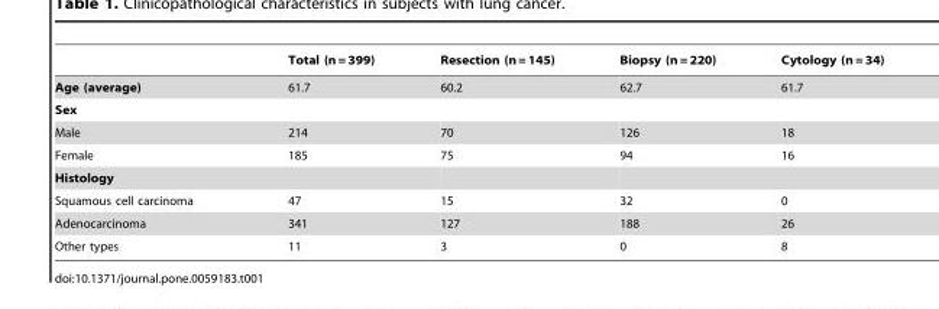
<table><thead><tr><td></td><td>Total (n = 399)</td><td>Resection (n = 145)</td><td>Biopsy (n = 220)</td><td>Cytology (n = 34)</td></tr></thead><tbody><tr><td>Age (average)</td><td>61.7</td><td>60.2</td><td>62.7</td><td>61.7</td></tr><tr><td colspan="5">Sex</td></tr><tr><td>Male</td><td>214</td><td>70</td><td>126</td><td>18</td></tr><tr><td>Female</td><td>185</td><td>75</td><td>94</td><td>16</td></tr><tr><td colspan="5">Histology</td></tr><tr><td>Squamous cell carcinoma</td><td>47</td><td>15</td><td>32</td><td>0</td></tr><tr><td>Adenocarcinoma</td><td>341</td><td>127</td><td>188</td><td>26</td></tr><tr><td>Other types</td><td>11</td><td>3</td><td>0</td><td>8</td></tr></tbody></table>